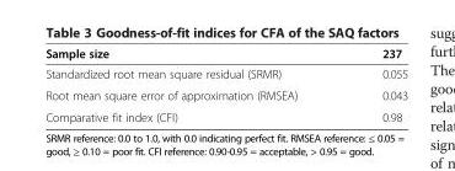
<table><thead><tr><td>Sample size</td><td>237</td></tr></thead><tbody><tr><td>Standardized root mean square residual (SRMR)</td><td>0.055</td></tr><tr><td>Root mean square error of approximation (RMSEA)</td><td>0.043</td></tr><tr><td>Comparative fit index (CFI)</td><td>0.98</td></tr></tbody></table>